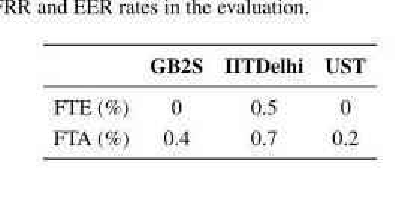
<table><thead><tr><td></td><td>GB2S</td><td>IITDelhi</td><td>UST</td></tr></thead><tbody><tr><td>FTE (%)</td><td>0</td><td>0.5</td><td>0</td></tr><tr><td>FTA (%)</td><td>0.4</td><td>0.7</td><td>0.2</td></tr></tbody></table>